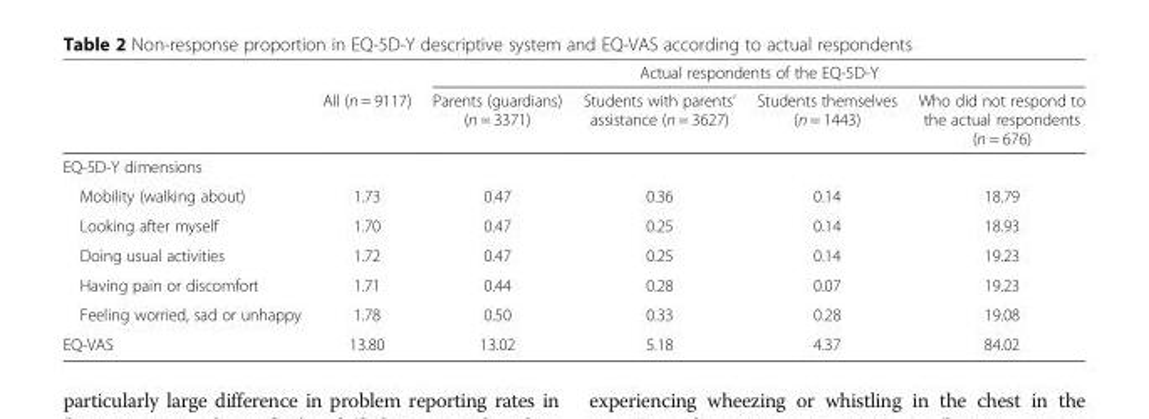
<table><thead><tr><td rowspan="2"></td><td rowspan="2">All (n = 9117)</td><td colspan="4">Actual respondents of the EQ-5D-Y</td></tr><tr><td>Parents (guardians) (n = 3371)</td><td>Students with parents’ assistance (n = 3627)</td><td>Students themselves (n = 1443)</td><td>Who did not respond to the actual respondents (n = 676)</td></tr></thead><tbody><tr><td colspan="6">EQ-5D-Y dimensions</td></tr><tr><td>Mobility (walking about)</td><td>1.73</td><td>0.47</td><td>0.36</td><td>0.14</td><td>18.79</td></tr><tr><td>Looking after myself</td><td>1.70</td><td>0.47</td><td>0.25</td><td>0.14</td><td>18.93</td></tr><tr><td>Doing usual activities</td><td>1.72</td><td>0.47</td><td>0.25</td><td>0.14</td><td>19.23</td></tr><tr><td>Having pain or discomfort</td><td>1.71</td><td>0.44</td><td>0.28</td><td>0.07</td><td>19.23</td></tr><tr><td>Feeling worried, sad or unhappy</td><td>1.78</td><td>0.50</td><td>0.33</td><td>0.28</td><td>19.08</td></tr><tr><td>EQ-VAS</td><td>13.80</td><td>13.02</td><td>5.18</td><td>4.37</td><td>84.02</td></tr></tbody></table>